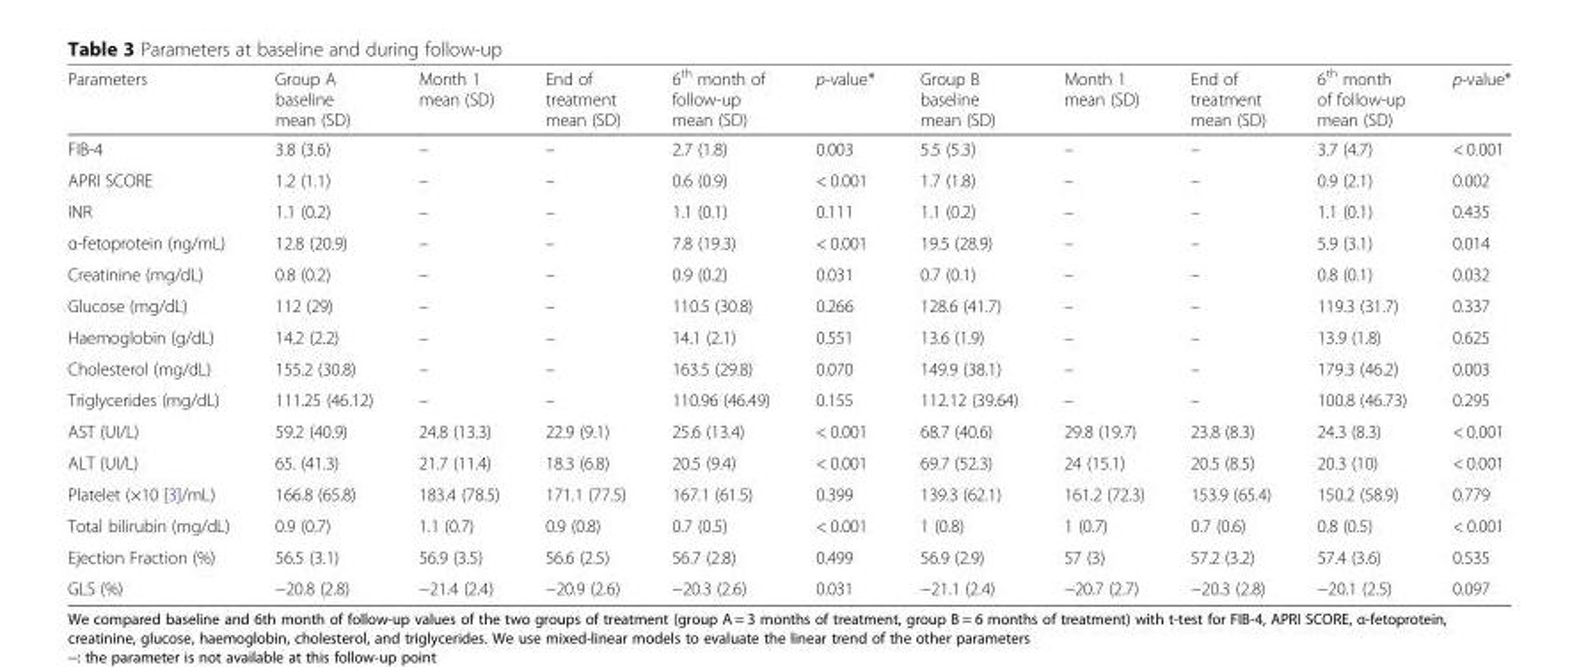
<table><thead><tr><td>Parameters</td><td>Group A baseline mean (SD)</td><td>Month 1 mean (SD)</td><td>End of treatment mean (SD)</td><td>6<sup>th</sup> month of follow-up mean (SD)</td><td>p-value*</td><td>Group B baseline mean (SD)</td><td>Month 1 mean (SD)</td><td>End of treatment mean (SD)</td><td>6<sup>th</sup> month of follow-up mean (SD)</td><td>p-value*</td></tr></thead><tbody><tr><td>FIB-4</td><td>3.8 (3.6)</td><td>–</td><td>–</td><td>2.7 (1.8)</td><td>0.003</td><td>5.5 (5.3)</td><td>–</td><td>–</td><td>3.7 (4.7)</td><td>&lt; 0.001</td></tr><tr><td>APRI SCORE</td><td>1.2 (1.1)</td><td>–</td><td>–</td><td>0.6 (0.9)</td><td>&lt; 0.001</td><td>1.7 (1.8)</td><td>–</td><td>–</td><td>0.9 (2.1)</td><td>0.002</td></tr><tr><td>INR</td><td>1.1 (0.2)</td><td>–</td><td>–</td><td>1.1 (0.1)</td><td>0.111</td><td>1.1 (0.2)</td><td>–</td><td>–</td><td>1.1 (0.1)</td><td>0.435</td></tr><tr><td>α-fetoprotein (ng/mL)</td><td>12.8 (20.9)</td><td>–</td><td>–</td><td>7.8 (19.3)</td><td>&lt; 0.001</td><td>19.5 (28.9)</td><td>–</td><td>–</td><td>5.9 (3.1)</td><td>0.014</td></tr><tr><td>Creatinine (mg/dL)</td><td>0.8 (0.2)</td><td>–</td><td>–</td><td>0.9 (0.2)</td><td>0.031</td><td>0.7 (0.1)</td><td>–</td><td>–</td><td>0.8 (0.1)</td><td>0.032</td></tr><tr><td>Glucose (mg/dL)</td><td>112 (29)</td><td>–</td><td>–</td><td>110.5 (30.8)</td><td>0.266</td><td>128.6 (41.7)</td><td>–</td><td>–</td><td>119.3 (31.7)</td><td>0.337</td></tr><tr><td>Haemoglobin (g/dL)</td><td>14.2 (2.2)</td><td>–</td><td>–</td><td>14.1 (2.1)</td><td>0.551</td><td>13.6 (1.9)</td><td>–</td><td>–</td><td>13.9 (1.8)</td><td>0.625</td></tr><tr><td>Cholesterol (mg/dL)</td><td>155.2 (30.8)</td><td>–</td><td>–</td><td>163.5 (29.8)</td><td>0.070</td><td>149.9 (38.1)</td><td>–</td><td>–</td><td>179.3 (46.2)</td><td>0.003</td></tr><tr><td>Triglycerides (mg/dL)</td><td>111.25 (46.12)</td><td>–</td><td>–</td><td>110.96 (46.49)</td><td>0.155</td><td>112.12 (39.64)</td><td>–</td><td>–</td><td>100.8 (46.73)</td><td>0.295</td></tr><tr><td>AST (UI/L)</td><td>59.2 (40.9)</td><td>24.8 (13.3)</td><td>22.9 (9.1)</td><td>25.6 (13.4)</td><td>&lt; 0.001</td><td>68.7 (40.6)</td><td>29.8 (19.7)</td><td>23.8 (8.3)</td><td>24.3 (8.3)</td><td>&lt; 0.001</td></tr><tr><td>ALT (UI/L)</td><td>65. (41.3)</td><td>21.7 (11.4)</td><td>18.3 (6.8)</td><td>20.5 (9.4)</td><td>&lt; 0.001</td><td>69.7 (52.3)</td><td>24 (15.1)</td><td>20.5 (8.5)</td><td>20.3 (10)</td><td>&lt; 0.001</td></tr><tr><td>Platelet (×10 [3]/mL)</td><td>166.8 (65.8)</td><td>183.4 (78.5)</td><td>171.1 (77.5)</td><td>167.1 (61.5)</td><td>0.399</td><td>139.3 (62.1)</td><td>161.2 (72.3)</td><td>153.9 (65.4)</td><td>150.2 (58.9)</td><td>0.779</td></tr><tr><td>Total bilirubin (mg/dL)</td><td>0.9 (0.7)</td><td>1.1 (0.7)</td><td>0.9 (0.8)</td><td>0.7 (0.5)</td><td>&lt; 0.001</td><td>1 (0.8)</td><td>1 (0.7)</td><td>0.7 (0.6)</td><td>0.8 (0.5)</td><td>&lt; 0.001</td></tr><tr><td>Ejection Fraction (%)</td><td>56.5 (3.1)</td><td>56.9 (3.5)</td><td>56.6 (2.5)</td><td>56.7 (2.8)</td><td>0.499</td><td>56.9 (2.9)</td><td>57 (3)</td><td>57.2 (3.2)</td><td>57.4 (3.6)</td><td>0.535</td></tr><tr><td>GLS (%)</td><td>−20.8 (2.8)</td><td>−21.4 (2.4)</td><td>−20.9 (2.6)</td><td>−20.3 (2.6)</td><td>0.031</td><td>−21.1 (2.4)</td><td>−20.7 (2.7)</td><td>−20.3 (2.8)</td><td>−20.1 (2.5)</td><td>0.097</td></tr></tbody></table>